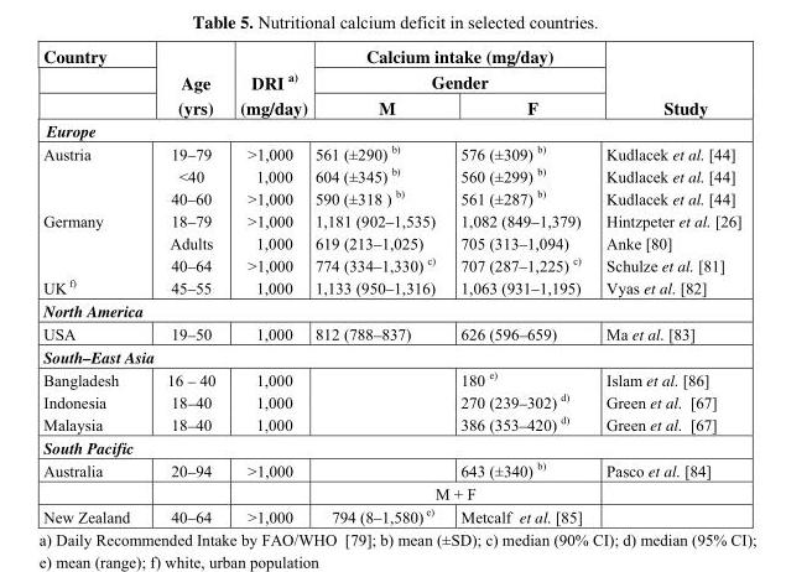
<table><thead><tr><td rowspan="3">Country</td><td rowspan="3">Age (yrs)</td><td rowspan="3">DRI a) (mg/day)</td><td rowspan="2" colspan="2">Calcium intake (mg/day) Gender</td><td rowspan="3">Study</td></tr><tr></tr><tr><td>M</td><td>F</td></tr></thead><tbody><tr><td colspan="6">Europe</td></tr><tr><td rowspan="3">Austria</td><td>19–79</td><td>&gt;1,000</td><td>561 (±290) b)</td><td>576 (±309) b)</td><td>Kudlacek et al. [44]</td></tr><tr><td>&lt;40</td><td>1,000</td><td>604 (±345) b)</td><td>560 (±299) b)</td><td>Kudlacek et al. [44]</td></tr><tr><td>40–60</td><td>&gt;1,000</td><td>590 (±318 ) b)</td><td>561 (±287) b)</td><td>Kudlacek et al. [44]</td></tr><tr><td rowspan="3">Germany</td><td>18–79</td><td>&gt;1,000</td><td>1,181 (902–1,535)</td><td>1,082 (849–1,379)</td><td>Hintzpeter et al. [26]</td></tr><tr><td>Adults</td><td>1,000</td><td>619 (213–1,025)</td><td>705 (313–1,094)</td><td>Anke [80]</td></tr><tr><td>40–64</td><td>&gt;1,000</td><td>774 (334–1,330) c)</td><td>707 (287–1,225) c)</td><td>Schulze et al. [81]</td></tr><tr><td>UK f)</td><td>45–55</td><td>1,000</td><td>1,133 (950–1,316)</td><td>1,063 (931–1,195)</td><td>Vyas et al. [82]</td></tr><tr><td colspan="6">North America</td></tr><tr><td>USA</td><td>19–50</td><td>1,000</td><td>812 (788–837)</td><td>626 (596–659)</td><td>Ma et al. [83]</td></tr><tr><td colspan="6">South–East Asia</td></tr><tr><td>Bangladesh</td><td>16 – 40</td><td>1,000</td><td></td><td>180 e)</td><td>Islam et al. [86]</td></tr><tr><td>Indonesia</td><td>18–40</td><td>1,000</td><td></td><td>270 (239–302) d)</td><td>Green et al. [67]</td></tr><tr><td>Malaysia</td><td>18–40</td><td>1,000</td><td></td><td>386 (353–420) d)</td><td>Green et al. [67]</td></tr><tr><td colspan="6">South Pacific</td></tr><tr><td rowspan="2">Australia</td><td>20–94</td><td>&gt;1,000</td><td></td><td>643 (±340) b)</td><td>Pasco et al. [84]</td></tr><tr><td></td><td></td><td colspan="2">M + F</td><td></td></tr><tr><td>New Zealand</td><td>40–64</td><td>&gt;1,000</td><td>794 (8–1,580) e)</td><td>Metcalf et al. [85]</td><td></td></tr></tbody></table>